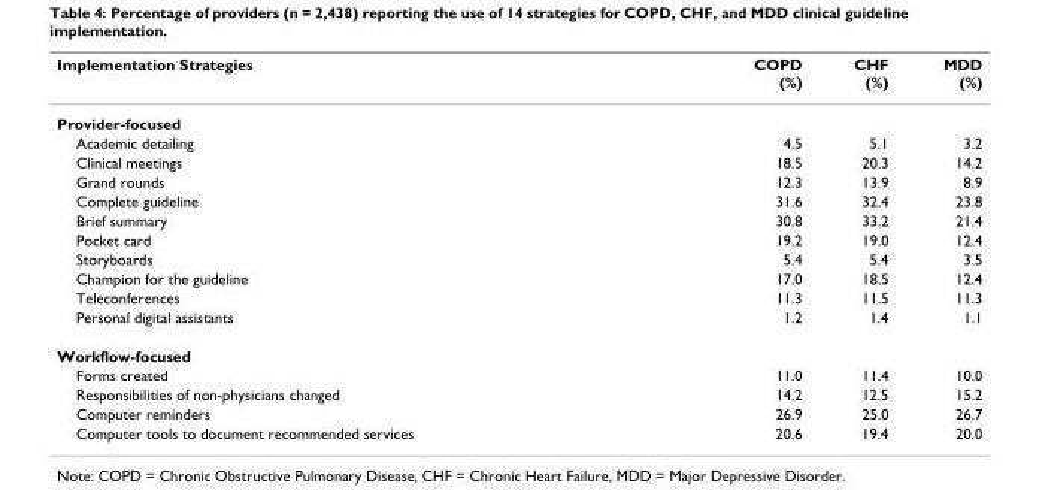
<table><thead><tr><td>Implementation Strategies</td><td>COPD (%)</td><td>CHF (%)</td><td>MDD (%)</td></tr></thead><tbody><tr><td colspan="4">Provider-focused</td></tr><tr><td>Academic detailing</td><td>4.5</td><td>5.1</td><td>3.2</td></tr><tr><td>Clinical meetings</td><td>18.5</td><td>20.3</td><td>14.2</td></tr><tr><td>Grand rounds</td><td>12.3</td><td>13.9</td><td>8.9</td></tr><tr><td>Complete guideline</td><td>31.6</td><td>32.4</td><td>23.8</td></tr><tr><td>Brief summary</td><td>30.8</td><td>33.2</td><td>21.4</td></tr><tr><td>Pocket card</td><td>19.2</td><td>19.0</td><td>12.4</td></tr><tr><td>Storyboards</td><td>5.4</td><td>5.4</td><td>3.5</td></tr><tr><td>Champion for the guideline</td><td>17.0</td><td>18.5</td><td>12.4</td></tr><tr><td>Teleconferences</td><td>11.3</td><td>11.5</td><td>11.3</td></tr><tr><td>Personal digital assistants</td><td>1.2</td><td>1.4</td><td>1.1</td></tr><tr><td colspan="4">Workflow-focused</td></tr><tr><td>Forms created</td><td>11.0</td><td>11.4</td><td>10.0</td></tr><tr><td>Responsibilities of non-physicians changed</td><td>14.2</td><td>12.5</td><td>15.2</td></tr><tr><td>Computer reminders</td><td>26.9</td><td>25.0</td><td>26.7</td></tr><tr><td>Computer tools to document recommended services</td><td>20.6</td><td>19.4</td><td>20.0</td></tr></tbody></table>